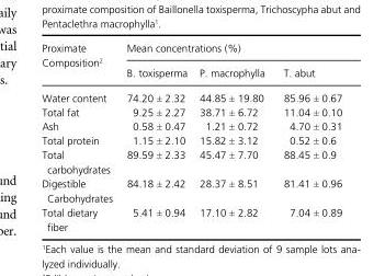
<table><thead><tr><td rowspan="2">Proximate Composition <sup>2</sup></td><td colspan="3">Mean concentrations (%)</td></tr><tr><td>B. toxisperma</td><td>P. macrophylla</td><td>T. abut</td></tr></thead><tbody><tr><td>Water content</td><td>74.20 ± 2.32</td><td>44.85 ± 19.80</td><td>85.96 ± 0.67</td></tr><tr><td>Total fat</td><td>9.25 ± 2.27</td><td>38.71 ± 6.72</td><td>11.04 ± 0.10</td></tr><tr><td>Ash</td><td>0.58 ± 0.47</td><td>1.21 ± 0.72</td><td>4.70 ± 0.31</td></tr><tr><td>Total protein</td><td>1.15 ± 2.10</td><td>15.82 ± 3.12</td><td>0.52 ± 0.6</td></tr><tr><td>Total carbohydrates</td><td>89.59 ± 2.33</td><td>45.47 ± 7.70</td><td>88.45 ± 0.9</td></tr><tr><td>Digestible Carbohydrates</td><td>84.18 ± 2.42</td><td>28.37 ± 8.51</td><td>81.41 ± 0.96</td></tr><tr><td>Total dietary fi ber</td><td>5.41 ± 0.94</td><td>17.10 ± 2.82</td><td>7.04 ± 0.89</td></tr></tbody></table>